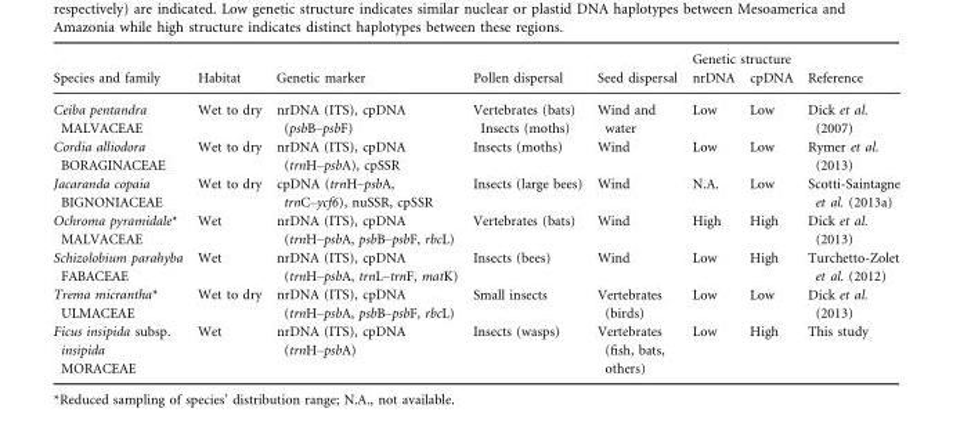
<table><thead><tr><td rowspan="2">Species and family</td><td rowspan="2">Habitat</td><td rowspan="2">Genetic marker</td><td rowspan="2">Pollen dispersal</td><td rowspan="2">Seed dispersal</td><td colspan="2">Genetic structure</td><td rowspan="2">Reference</td></tr><tr><td>nrDNA</td><td>cpDNA</td></tr></thead><tbody><tr><td>Ceiba pentandra MALVACEAE</td><td>Wet to dry</td><td>nrDNA (ITS), cpDNA (psbB–psbF)</td><td>Vertebrates (bats) Insects (moths)</td><td>Wind and water</td><td>Low</td><td>Low</td><td>Dick et al. (2007)</td></tr><tr><td>Cordia alliodora BORAGINACEAE</td><td>Wet to dry</td><td>nrDNA (ITS), cpDNA (trnH–psbA), cpSSR</td><td>Insects (moths)</td><td>Wind</td><td>Low</td><td>Low</td><td>Rymer et al. (2013)</td></tr><tr><td>Jacaranda copaia BIGNONIACEAE</td><td>Wet to dry</td><td>cpDNA (trnH–psbA, trnC–ycf6), nuSSR, cpSSR</td><td>Insects (large bees)</td><td>Wind</td><td>N.A.</td><td>Low</td><td>Scotti-Saintagne et al. (2013a)</td></tr><tr><td>Ochroma pyramidale* MALVACEAE</td><td>Wet</td><td>nrDNA (ITS), cpDNA (trnH–psbA, psbB–psbF, rbcL)</td><td>Vertebrates (bats)</td><td>Wind</td><td>High</td><td>High</td><td>Dick et al. (2013)</td></tr><tr><td>Schizolobium parahyba FABACEAE</td><td>Wet</td><td>nrDNA (ITS), cpDNA (trnH–psbA, trnL–trnF, matK)</td><td>Insects (bees)</td><td>Wind</td><td>Low</td><td>High</td><td>Turchetto-Zolet et al. (2012)</td></tr><tr><td>Trema micrantha* ULMACEAE</td><td>Wet to dry</td><td>nrDNA (ITS), cpDNA (trnH–psbA, psbB–psbF, rbcL)</td><td>Small insects</td><td>Vertebrates (birds)</td><td>Low</td><td>Low</td><td>Dick et al. (2013)</td></tr><tr><td>Ficus insipida subsp. insipida MORACEAE</td><td>Wet</td><td>nrDNA (ITS), cpDNA (trnH–psbA)</td><td>Insects (wasps)</td><td>Vertebrates (fish, bats, others)</td><td>Low</td><td>High</td><td>This study</td></tr></tbody></table>